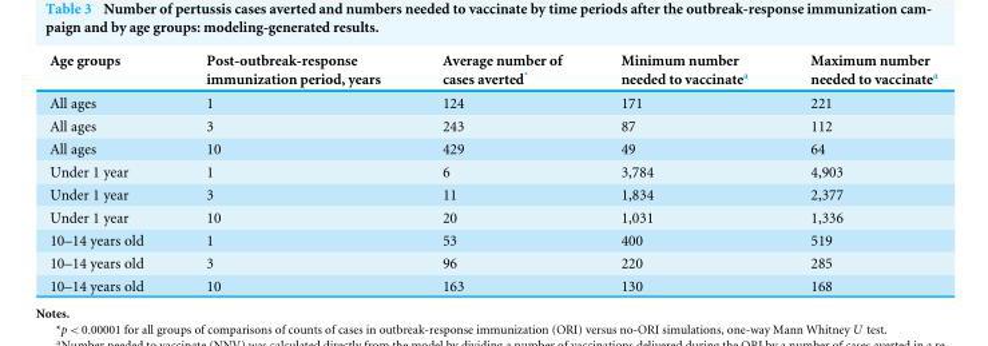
<table><thead><tr><td>Age groups</td><td>Post-outbreak-response immunization period, years</td><td>Average number of cases averted*</td><td>Minimum number needed to vaccinate<sup>a</sup></td><td>Maximum number needed to vaccinate<sup>a</sup></td></tr></thead><tbody><tr><td>All ages</td><td>1</td><td>124</td><td>171</td><td>221</td></tr><tr><td>All ages</td><td>3</td><td>243</td><td>87</td><td>112</td></tr><tr><td>All ages</td><td>10</td><td>429</td><td>49</td><td>64</td></tr><tr><td>Under 1 year</td><td>1</td><td>6</td><td>3,784</td><td>4,903</td></tr><tr><td>Under 1 year</td><td>3</td><td>11</td><td>1,834</td><td>2,377</td></tr><tr><td>Under 1 year</td><td>10</td><td>20</td><td>1,031</td><td>1,336</td></tr><tr><td>10–14 years old</td><td>1</td><td>53</td><td>400</td><td>519</td></tr><tr><td>10–14 years old</td><td>3</td><td>96</td><td>220</td><td>285</td></tr><tr><td>10–14 years old</td><td>10</td><td>163</td><td>130</td><td>168</td></tr></tbody></table>